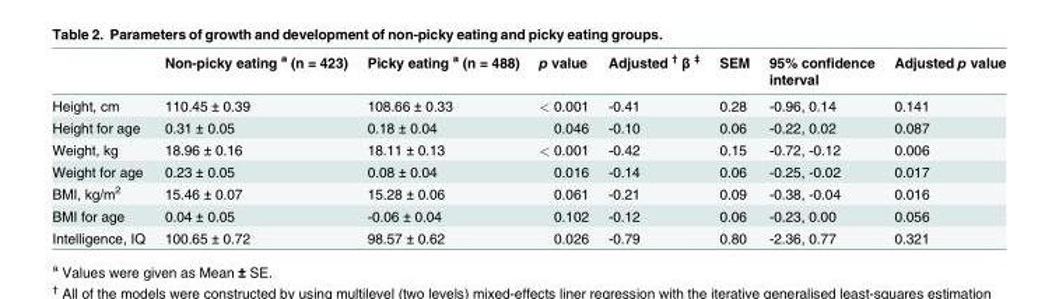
<table><thead><tr><td></td><td>Non-picky eating <sup>a</sup> (n = 423)</td><td>Picky eating <sup>a</sup> (n = 488)</td><td>p value</td><td>Adjusted <sup>†</sup> β <sup>‡</sup></td><td>SEM</td><td>95% confidence interval</td><td>Adjusted p value</td></tr></thead><tbody><tr><td>Height, cm</td><td>110.45 ± 0.39</td><td>108.66 ± 0.33</td><td>&lt; 0.001</td><td>-0.41</td><td>0.28</td><td>-0.96, 0.14</td><td>0.141</td></tr><tr><td>Height for age</td><td>0.31 ± 0.05</td><td>0.18 ± 0.04</td><td>0.046</td><td>-0.10</td><td>0.06</td><td>-0.22, 0.02</td><td>0.087</td></tr><tr><td>Weight, kg</td><td>18.96 ± 0.16</td><td>18.11 ± 0.13</td><td>&lt; 0.001</td><td>-0.42</td><td>0.15</td><td>-0.72, -0.12</td><td>0.006</td></tr><tr><td>Weight for age</td><td>0.23 ± 0.05</td><td>0.08 ± 0.04</td><td>0.016</td><td>-0.14</td><td>0.06</td><td>-0.25, -0.02</td><td>0.017</td></tr><tr><td>BMI, kg/m<sup>2</sup></td><td>15.46 ± 0.07</td><td>15.28 ± 0.06</td><td>0.061</td><td>-0.21</td><td>0.09</td><td>-0.38, -0.04</td><td>0.016</td></tr><tr><td>BMI for age</td><td>0.04 ± 0.05</td><td>-0.06 ± 0.04</td><td>0.102</td><td>-0.12</td><td>0.06</td><td>-0.23, 0.00</td><td>0.056</td></tr><tr><td>Intelligence, IQ</td><td>100.65 ± 0.72</td><td>98.57 ± 0.62</td><td>0.026</td><td>-0.79</td><td>0.80</td><td>-2.36, 0.77</td><td>0.321</td></tr></tbody></table>